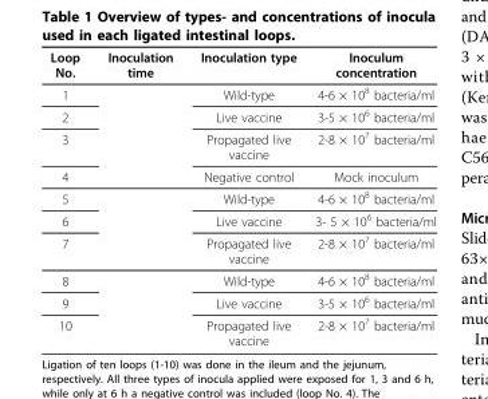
<table><thead><tr><td>Loop No.</td><td>Inoculation time</td><td>Inoculation type</td><td>Inoculum concentration</td></tr></thead><tbody><tr><td>1</td><td></td><td>Wild-type</td><td>4-6 × 10<sup>8</sup> bacteria/ml</td></tr><tr><td>2</td><td></td><td>Live vaccine</td><td>3-5 × 10<sup>6</sup> bacteria/ml</td></tr><tr><td>3</td><td></td><td>Propagated live vaccine</td><td>2-8 × 10<sup>7</sup> bacteria/ml</td></tr><tr><td>4</td><td></td><td>Negative control</td><td>Mock inoculum</td></tr><tr><td>5</td><td></td><td>Wild-type</td><td>4-6 × 10<sup>8</sup> bacteria/ml</td></tr><tr><td>6</td><td></td><td>Live vaccine</td><td>3- 5 × 10<sup>6</sup> bacteria/ml</td></tr><tr><td>7</td><td></td><td>Propagated live vaccine</td><td>2-8 × 10<sup>7</sup> bacteria/ml</td></tr><tr><td>8</td><td></td><td>Wild-type</td><td>4-6 × 10<sup>8</sup> bacteria/ml</td></tr><tr><td>9</td><td></td><td>Live vaccine</td><td>3-5 × 10<sup>6</sup> bacteria/ml</td></tr><tr><td>10</td><td></td><td>Propagated live vaccine</td><td>2-8 × 10<sup>7</sup> bacteria/ml</td></tr></tbody></table>